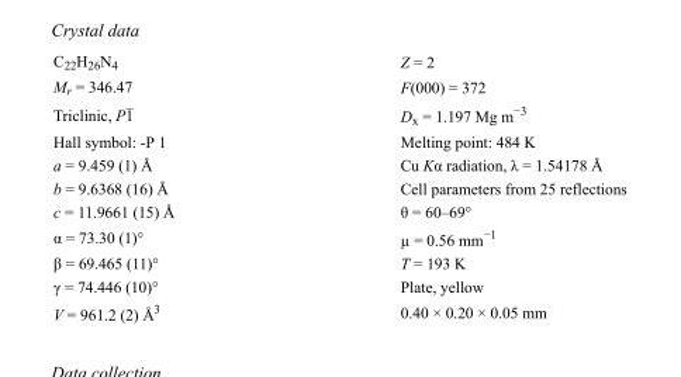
<table><tbody><tr><td>C<sub>22</sub>H<sub>26</sub>N<sub>4</sub></td><td>Z = 2</td></tr><tr><td>M<sub>r</sub> = 346.47</td><td>F(000) = 372</td></tr><tr><td>Triclinic, P1</td><td>D<sub>x</sub> = 1.197 Mg m<sup>−3</sup></td></tr><tr><td>Hall symbol: -P 1</td><td>Melting point: 484 K</td></tr><tr><td>a = 9.459 (1) Å</td><td>Cu Kα radiation, λ = 1.54178 Å</td></tr><tr><td>b = 9.6368 (16) Å</td><td>Cell parameters from 25 reflections</td></tr><tr><td>c = 11.9661 (15) Å</td><td>θ = 60–69°</td></tr><tr><td>α = 73.30 (1)°</td><td>µ = 0.56 mm<sup>−1</sup></td></tr><tr><td>β = 69.465 (11)°</td><td>T = 193 K</td></tr><tr><td>γ = 74.446 (10)°</td><td>Plate, yellow</td></tr><tr><td>V = 961.2 (2) Å<sup>3</sup></td><td>0.40 × 0.20 × 0.05 mm</td></tr></tbody></table>